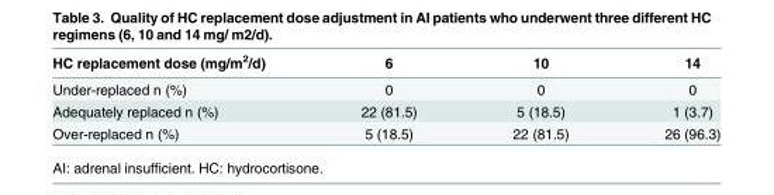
<table><thead><tr><td>HC replacement dose (mg/m<sup>2</sup>/d)</td><td>6</td><td>10</td><td>14</td></tr></thead><tbody><tr><td>Under-replaced n (%)</td><td>0</td><td>0</td><td>0</td></tr><tr><td>Adequately replaced n (%)</td><td>22 (81.5)</td><td>5 (18.5)</td><td>1 (3.7)</td></tr><tr><td>Over-replaced n (%)</td><td>5 (18.5)</td><td>22 (81.5)</td><td>26 (96.3)</td></tr></tbody></table>